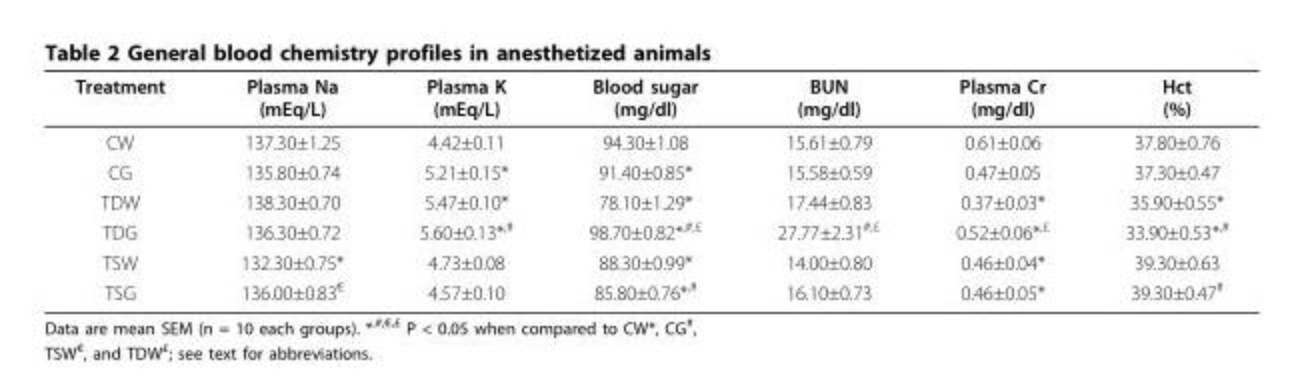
<table><thead><tr><td>Treatment</td><td>Plasma Na (mEq/L)</td><td>Plasma K (mEq/L)</td><td>Blood sugar (mg/dl)</td><td>BUN (mg/dl)</td><td>Plasma Cr (mg/dl)</td><td>Hct (%)</td></tr></thead><tbody><tr><td>CW</td><td>137.30±1.25</td><td>4.42±0.11</td><td>94.30±1.08</td><td>15.61±0.79</td><td>0.61±0.06</td><td>37.80±0.76</td></tr><tr><td>CG</td><td>135.80±0.74</td><td>5.21±0.15*</td><td>91.40±0.85*</td><td>15.58±0.59</td><td>0.47±0.05</td><td>37.30±0.47</td></tr><tr><td>TDW</td><td>138.30±0.70</td><td>5.47±0.10*</td><td>78.10±1.29*</td><td>17.44±0.83</td><td>0.37±0.03*</td><td>35.90±0.55*</td></tr><tr><td>TDG</td><td>136.30±0.72</td><td>5.60±0.13*<sup>,#</sup></td><td>98.70±0.82*<sup>,#,£</sup></td><td>27.77±2.31<sup>#,£</sup></td><td>0.52±0.06*<sup>,£</sup></td><td>33.90±0.53*<sup>,#</sup></td></tr><tr><td>TSW</td><td>132.30±0.75*</td><td>4.73±0.08</td><td>88.30±0.99*</td><td>14.00±0.80</td><td>0.46±0.04*</td><td>39.30±0.63</td></tr><tr><td>TSG</td><td>136.00±0.83<sup>€</sup></td><td>4.57±0.10</td><td>85.80±0.76*<sup>,#</sup></td><td>16.10±0.73</td><td>0.46±0.05*</td><td>39.30±0.47<sup>#</sup></td></tr></tbody></table>